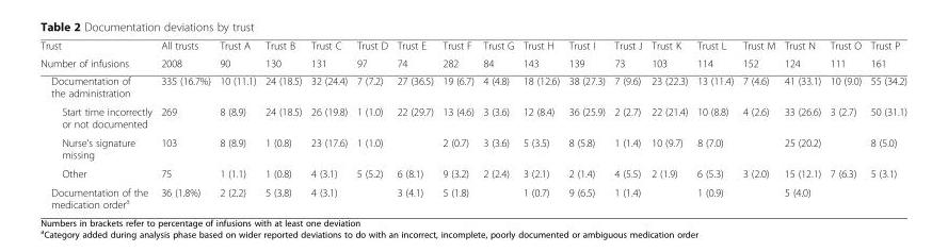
<table><thead><tr><td rowspan="2">Trust Number of infusions</td><td rowspan="2">All trusts 2008</td><td rowspan="2">Trust A 90</td><td rowspan="2">Trust B 130</td><td rowspan="2">Trust C 131</td><td rowspan="2">Trust D 97</td><td rowspan="2">Trust E 74</td><td rowspan="2">Trust F 282</td><td rowspan="2">Trust G 84</td><td rowspan="2">Trust H 143</td><td rowspan="2">Trust I 139</td><td rowspan="2">Trust J 73</td><td rowspan="2">Trust K 103</td><td rowspan="2">Trust L 114</td><td rowspan="2">Trust M 152</td><td rowspan="2">Trust N 124</td><td rowspan="2">Trust O 111</td><td rowspan="2">Trust P 161</td></tr><tr></tr></thead><tbody><tr><td>Documentation of the administration</td><td>335 (16.7%)</td><td>10 (11.1)</td><td>24 (18.5)</td><td>32 (24.4)</td><td>7 (7.2)</td><td>27 (36.5)</td><td>19 (6.7)</td><td>4 (4.8)</td><td>18 (12.6)</td><td>38 (27.3)</td><td>7 (9.6)</td><td>23 (22.3)</td><td>13 (11.4)</td><td>7 (4.6)</td><td>41 (33.1)</td><td>10 (9.0)</td><td>55 (34.2)</td></tr><tr><td>Start time incorrectly or not documented</td><td>269</td><td>8 (8.9)</td><td>24 (18.5)</td><td>26 (19.8)</td><td>1 (1.0)</td><td>22 (29.7)</td><td>13 (4.6)</td><td>3 (3.6)</td><td>12 (8.4)</td><td>36 (25.9)</td><td>2 (2.7)</td><td>22 (21.4)</td><td>10 (8.8)</td><td>4 (2.6)</td><td>33 (26.6)</td><td>3 (2.7)</td><td>50 (31.1)</td></tr><tr><td>Nurse’s signature missing</td><td>103</td><td>8 (8.9)</td><td>1 (0.8)</td><td>23 (17.6)</td><td>1 (1.0)</td><td></td><td>2 (0.7)</td><td>3 (3.6)</td><td>5 (3.5)</td><td>8 (5.8)</td><td>1 (1.4)</td><td>10 (9.7)</td><td>8 (7.0)</td><td></td><td>25 (20.2)</td><td></td><td>8 (5.0)</td></tr><tr><td>Other</td><td>75</td><td>1 (1.1)</td><td>1 (0.8)</td><td>4 (3.1)</td><td>5 (5.2)</td><td>6 (8.1)</td><td>9 (3.2)</td><td>2 (2.4)</td><td>3 (2.1)</td><td>2 (1.4)</td><td>4 (5.5)</td><td>2 (1.9)</td><td>6 (5.3)</td><td>3 (2.0)</td><td>15 (12.1)</td><td>7 (6.3)</td><td>5 (3.1)</td></tr><tr><td>Documentation of the medication order<sup>a</sup></td><td>36 (1.8%)</td><td>2 (2.2)</td><td>5 (3.8)</td><td>4 (3.1)</td><td></td><td>3 (4.1)</td><td>5 (1.8)</td><td></td><td>1 (0.7)</td><td>9 (6.5)</td><td>1 (1.4)</td><td></td><td>1 (0.9)</td><td></td><td>5 (4.0)</td><td></td><td></td></tr></tbody></table>